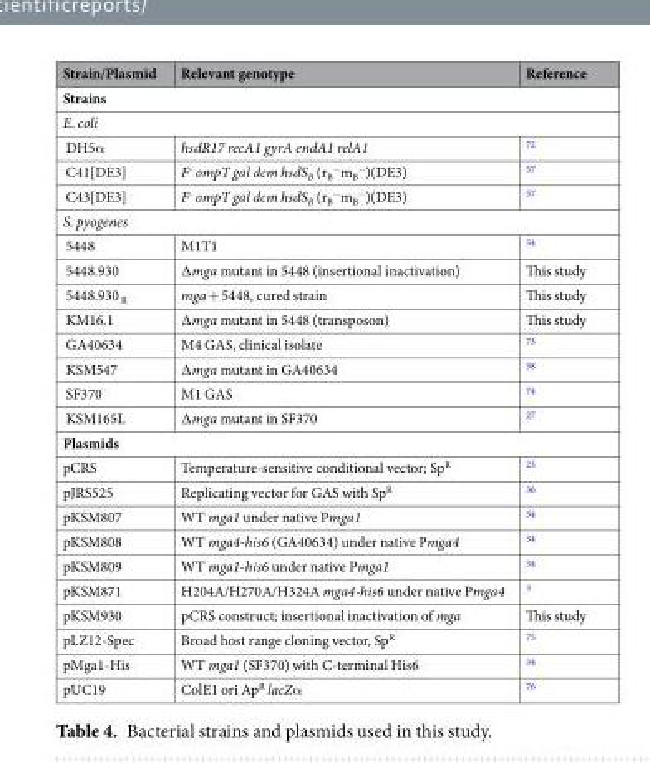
<table><thead><tr><td>Strain/Plasmid</td><td>Relevant genotype</td><td>Reference</td></tr></thead><tbody><tr><td colspan="3">Strains</td></tr><tr><td colspan="3">E. coli</td></tr><tr><td>DH5α</td><td>hsdR17 recA1 gyrA endA1 relA1</td><td><sup>72</sup></td></tr><tr><td>C41[DE3]</td><td>F<sup>-</sup> ompT gal dcm hsdS<sub>B</sub> (r<sub>B</sub> <sup>−</sup>m<sub>B</sub> <sup>−</sup>)(DE3)</td><td><sup>57</sup></td></tr><tr><td>C43[DE3]</td><td>F<sup>-</sup> ompT gal dcm hsdS<sub>B</sub> (r<sub>B</sub> <sup>−</sup>m<sub>B</sub> <sup>−</sup>)(DE3)</td><td><sup>57</sup></td></tr><tr><td colspan="3">S. pyogenes</td></tr><tr><td>5448</td><td>M1T1</td><td><sup>54</sup></td></tr><tr><td>5448.930</td><td>∆mga mutant in 5448 (insertional inactivation)</td><td>This study</td></tr><tr><td>5448.930 <sub>R</sub></td><td>mga + 5448, cured strain</td><td>This study</td></tr><tr><td>KM16.1</td><td>∆mga mutant in 5448 (transposon)</td><td>This study</td></tr><tr><td>GA40634</td><td>M4 GAS, clinical isolate</td><td><sup>73</sup></td></tr><tr><td>KSM547</td><td>∆mga mutant in GA40634</td><td><sup>38</sup></td></tr><tr><td>SF370</td><td>M1 GAS</td><td><sup>74</sup></td></tr><tr><td>KSM165L</td><td>∆mga mutant in SF370</td><td><sup>27</sup></td></tr><tr><td colspan="3">Plasmids</td></tr><tr><td>pCRS</td><td>Temperature-sensitive conditional vector; Sp<sup>R</sup></td><td><sup>23</sup></td></tr><tr><td>pJRS525</td><td>Replicating vector for GAS with Sp<sup>R</sup></td><td><sup>36</sup></td></tr><tr><td>pKSM807</td><td>WT mga1 under native Pmga1</td><td><sup>34</sup></td></tr><tr><td>pKSM808</td><td>WT mga4-his6 (GA40634) under native Pmga4</td><td><sup>34</sup></td></tr><tr><td>pKSM809</td><td>WT mga1-his6 under native Pmga1</td><td><sup>34</sup></td></tr><tr><td>pKSM871</td><td>H204A/H270A/H324A mga4-his6 under native Pmga4</td><td><sup>3</sup></td></tr><tr><td>pKSM930</td><td>pCRS construct; insertional inactivation of mga</td><td>This study</td></tr><tr><td>pLZ12-Spec</td><td>Broad host range cloning vector, Sp<sup>R</sup></td><td><sup>75</sup></td></tr><tr><td>pMga1-His</td><td>WT mga1 (SF370) with C-terminal His6</td><td><sup>34</sup></td></tr><tr><td>pUC19</td><td>ColE1 ori Ap<sup>R</sup> lacZα</td><td><sup>76</sup></td></tr></tbody></table>